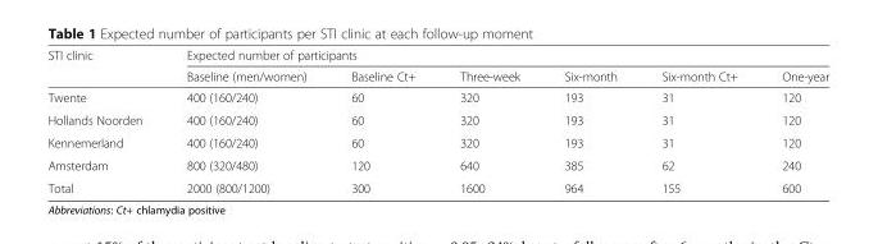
<table><thead><tr><td rowspan="2">STI clinic</td><td colspan="6">Expected number of participants</td></tr><tr><td>Baseline (men/women)</td><td>Baseline Ct+</td><td>Three-week</td><td>Six-month</td><td>Six-month Ct+</td><td>One-year</td></tr></thead><tbody><tr><td>Twente</td><td>400 (160/240)</td><td>60</td><td>320</td><td>193</td><td>31</td><td>120</td></tr><tr><td>Hollands Noorden</td><td>400 (160/240)</td><td>60</td><td>320</td><td>193</td><td>31</td><td>120</td></tr><tr><td>Kennemerland</td><td>400 (160/240)</td><td>60</td><td>320</td><td>193</td><td>31</td><td>120</td></tr><tr><td>Amsterdam</td><td>800 (320/480)</td><td>120</td><td>640</td><td>385</td><td>62</td><td>240</td></tr><tr><td>Total</td><td>2000 (800/1200)</td><td>300</td><td>1600</td><td>964</td><td>155</td><td>600</td></tr></tbody></table>